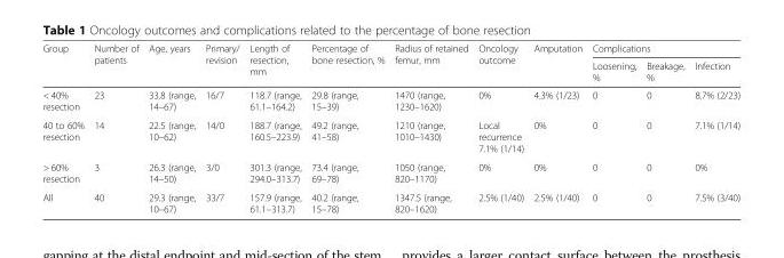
<table><thead><tr><td rowspan="2">Group</td><td rowspan="2">Number of patients</td><td rowspan="2">Age, years</td><td rowspan="2">Primary/ revision</td><td rowspan="2">Length of resection, mm</td><td rowspan="2">Percentage of bone resection, %</td><td rowspan="2">Radius of retained femur, mm</td><td rowspan="2">Oncology outcome</td><td rowspan="2">Amputation</td><td colspan="3">Complications</td></tr><tr><td>Loosening, %</td><td>Breakage, %</td><td>Infection</td></tr></thead><tbody><tr><td>&lt; 40% resection</td><td>23</td><td>33.8 (range, 14–67)</td><td>16/7</td><td>118.7 (range, 61.1–164.2)</td><td>29.8 (range, 15–39)</td><td>1470 (range, 1230–1620)</td><td>0%</td><td>4.3% (1/23)</td><td>0</td><td>0</td><td>8.7% (2/23)</td></tr><tr><td>40 to 60% resection</td><td>14</td><td>22.5 (range, 10–62)</td><td>14/0</td><td>188.7 (range, 160.5–223.9)</td><td>49.2 (range, 41–58)</td><td>1210 (range, 1010–1430)</td><td>Local recurrence 7.1% (1/14)</td><td>0%</td><td>0</td><td>0</td><td>7.1% (1/14)</td></tr><tr><td>&gt; 60% resection</td><td>3</td><td>26.3 (range, 14–50)</td><td>3/0</td><td>301.3 (range, 294.0–313.7)</td><td>73.4 (range, 69–78)</td><td>1050 (range, 820–1170)</td><td>0%</td><td>0%</td><td>0</td><td>0</td><td>0%</td></tr><tr><td>All</td><td>40</td><td>29.3 (range, 10–67)</td><td>33/7</td><td>157.9 (range, 61.1–313.7)</td><td>40.2 (range, 15–78)</td><td>1347.5 (range, 820–1620)</td><td>2.5% (1/40)</td><td>2.5% (1/40)</td><td>0</td><td>0</td><td>7.5% (3/40)</td></tr></tbody></table>